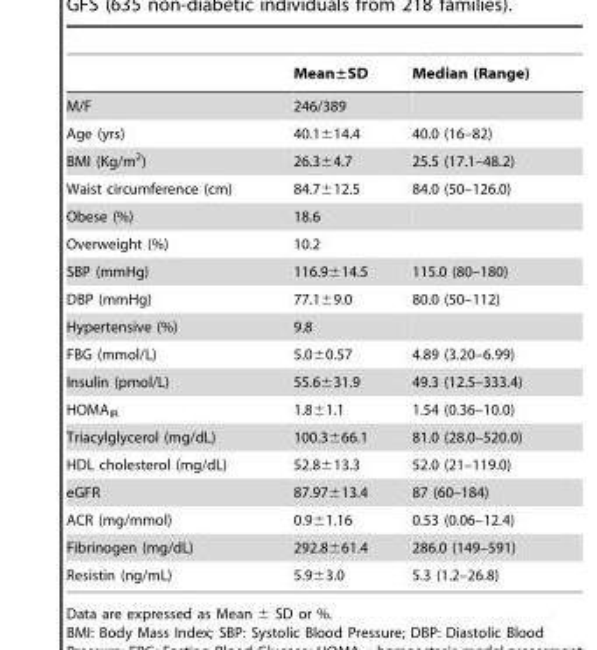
<table><thead><tr><td></td><td>Mean±SD</td><td>Median (Range)</td></tr></thead><tbody><tr><td>M/F</td><td>246/389</td><td></td></tr><tr><td>Age (yrs)</td><td>40.1±14.4</td><td>40.0 (16–82)</td></tr><tr><td>BMI (Kg/m<sup>2</sup>)</td><td>26.3±4.7</td><td>25.5 (17.1–48.2)</td></tr><tr><td>Waist circumference (cm)</td><td>84.7±12.5</td><td>84.0 (50–126.0)</td></tr><tr><td>Obese (%)</td><td>18.6</td><td></td></tr><tr><td>Overweight (%)</td><td>10.2</td><td></td></tr><tr><td>SBP (mmHg)</td><td>116.9±14.5</td><td>115.0 (80–180)</td></tr><tr><td>DBP (mmHg)</td><td>77.1±9.0</td><td>80.0 (50–112)</td></tr><tr><td>Hypertensive (%)</td><td>9.8</td><td></td></tr><tr><td>FBG (mmol/L)</td><td>5.0±0.57</td><td>4.89 (3.20–6.99)</td></tr><tr><td>Insulin (pmol/L)</td><td>55.6±31.9</td><td>49.3 (12.5–333.4)</td></tr><tr><td>HOMA<sub>IR</sub></td><td>1.8±1.1</td><td>1.54 (0.36–10.0)</td></tr><tr><td>Triacylglycerol (mg/dL)</td><td>100.3±66.1</td><td>81.0 (28.0–520.0)</td></tr><tr><td>HDL cholesterol (mg/dL)</td><td>52.8±13.3</td><td>52.0 (21–119.0)</td></tr><tr><td>eGFR</td><td>87.97±13.4</td><td>87 (60–184)</td></tr><tr><td>ACR (mg/mmol)</td><td>0.9±1.16</td><td>0.53 (0.06–12.4)</td></tr><tr><td>Fibrinogen (mg/dL)</td><td>292.8±61.4</td><td>286.0 (149–591)</td></tr><tr><td>Resistin (ng/mL)</td><td>5.9±3.0</td><td>5.3 (1.2–26.8)</td></tr></tbody></table>